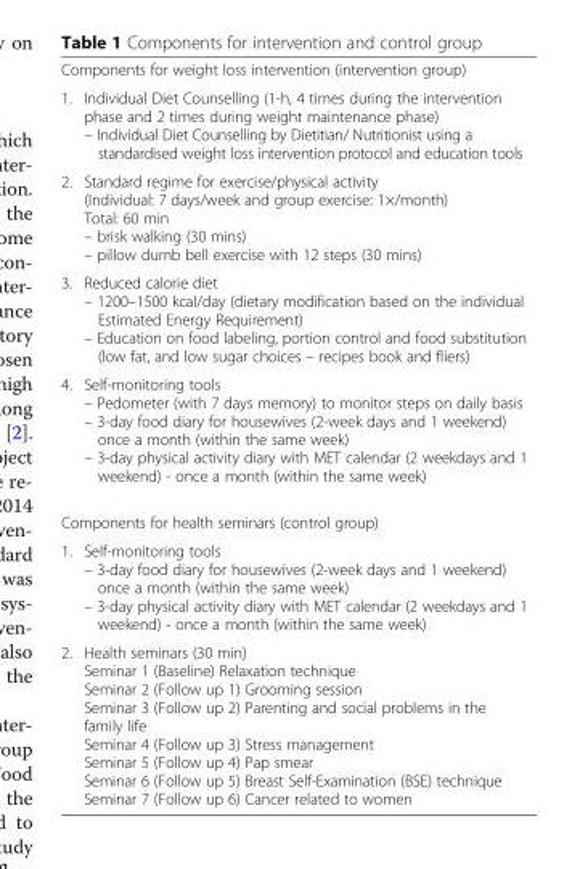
<table><tbody><tr><td colspan="2">Components for weight loss intervention (intervention group)</td></tr><tr><td>1.</td><td>Individual Diet Counselling (1-h, 4 times during the intervention phase and 2 times during weight maintenance phase) – Individual Diet Counselling by Dietitian/ Nutritionist using a standardised weight loss intervention protocol and education tools</td></tr><tr><td>2.</td><td>Standard regime for exercise/physical activity (Individual: 7 days/week and group exercise: 1×/month) Total: 60 min – brisk walking (30 mins) – pillow dumb bell exercise with 12 steps (30 mins)</td></tr><tr><td>3.</td><td>Reduced calorie diet – 1200–1500 kcal/day (dietary modification based on the individual Estimated Energy Requirement) – Education on food labeling, portion control and food substitution (low fat, and low sugar choices – recipes book and fliers)</td></tr><tr><td>4.</td><td>Self-monitoring tools – Pedometer (with 7 days memory) to monitor steps on daily basis – 3-day food diary for housewives (2-week days and 1 weekend) once a month (within the same week) – 3-day physical activity diary with MET calendar (2 weekdays and 1 weekend) - once a month (within the same week)</td></tr><tr><td colspan="2">Components for health seminars (control group)</td></tr><tr><td>1.</td><td>Self-monitoring tools – 3-day food diary for housewives (2-week days and 1 weekend) once a month (within the same week) – 3-day physical activity diary with MET calendar (2 weekdays and 1 weekend) - once a month (within the same week)</td></tr><tr><td>2.</td><td>Health seminars (30 min) Seminar 1 (Baseline) Relaxation technique Seminar 2 (Follow up 1) Grooming session Seminar 3 (Follow up 2) Parenting and social problems in the family life Seminar 4 (Follow up 3) Stress management Seminar 5 (Follow up 4) Pap smear Seminar 6 (Follow up 5) Breast Self-Examination (BSE) technique Seminar 7 (Follow up 6) Cancer related to women</td></tr></tbody></table>